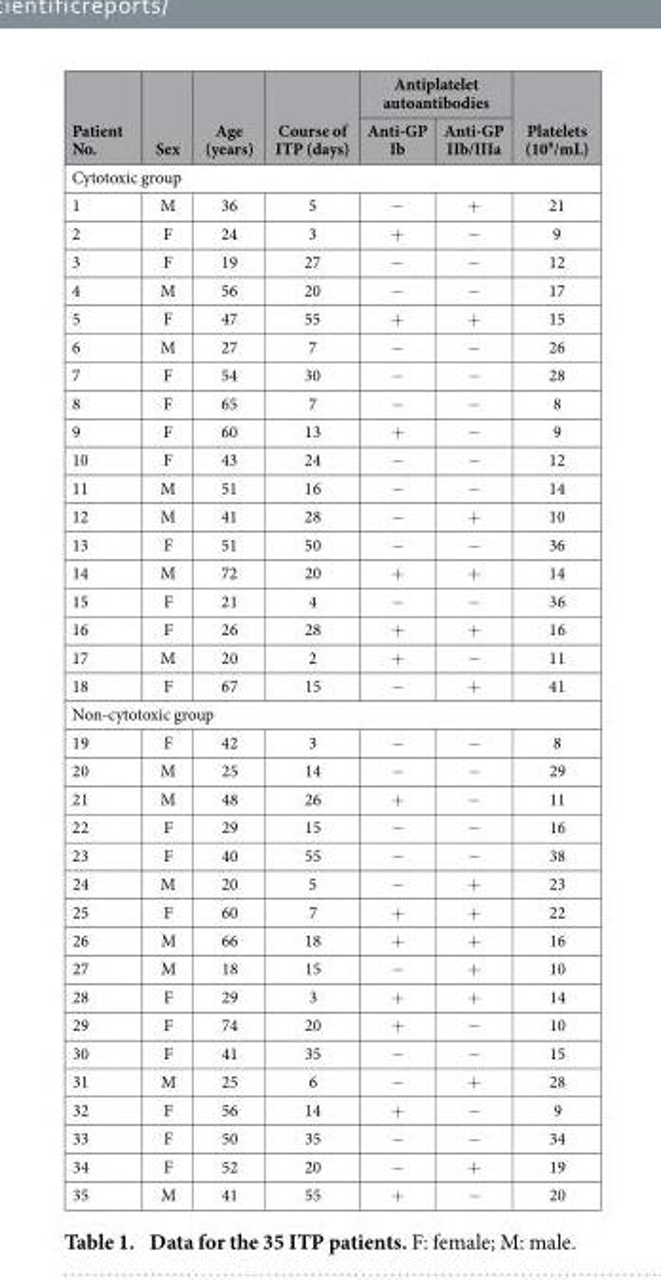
<table><thead><tr><td rowspan="2">Patient No.</td><td rowspan="2">Sex</td><td rowspan="2">Age (years)</td><td rowspan="2">Course of ITP (days)</td><td colspan="2">Antiplatelet autoantibodies</td><td rowspan="2">Platelets (10<sup>9</sup>/mL)</td></tr><tr><td>Anti-GP Ib</td><td>Anti-GP IIb/IIIa</td></tr></thead><tbody><tr><td colspan="7">Cytotoxic group</td></tr><tr><td>1</td><td>M</td><td>36</td><td>5</td><td>−</td><td>+</td><td>21</td></tr><tr><td>2</td><td>F</td><td>24</td><td>3</td><td>+</td><td>−</td><td>9</td></tr><tr><td>3</td><td>F</td><td>19</td><td>27</td><td>−</td><td>−</td><td>12</td></tr><tr><td>4</td><td>M</td><td>56</td><td>20</td><td>−</td><td>−</td><td>17</td></tr><tr><td>5</td><td>F</td><td>47</td><td>55</td><td>+</td><td>+</td><td>15</td></tr><tr><td>6</td><td>M</td><td>27</td><td>7</td><td>−</td><td>−</td><td>26</td></tr><tr><td>7</td><td>F</td><td>54</td><td>30</td><td>−</td><td>−</td><td>28</td></tr><tr><td>8</td><td>F</td><td>65</td><td>7</td><td>−</td><td>−</td><td>8</td></tr><tr><td>9</td><td>F</td><td>60</td><td>13</td><td>+</td><td>−</td><td>9</td></tr><tr><td>10</td><td>F</td><td>43</td><td>24</td><td>−</td><td>−</td><td>12</td></tr><tr><td>11</td><td>M</td><td>51</td><td>16</td><td>−</td><td>−</td><td>14</td></tr><tr><td>12</td><td>M</td><td>41</td><td>28</td><td>−</td><td>+</td><td>10</td></tr><tr><td>13</td><td>F</td><td>51</td><td>50</td><td>−</td><td>−</td><td>36</td></tr><tr><td>14</td><td>M</td><td>72</td><td>20</td><td>+</td><td>+</td><td>14</td></tr><tr><td>15</td><td>F</td><td>21</td><td>4</td><td>−</td><td>−</td><td>36</td></tr><tr><td>16</td><td>F</td><td>26</td><td>28</td><td>+</td><td>+</td><td>16</td></tr><tr><td>17</td><td>M</td><td>20</td><td>2</td><td>+</td><td>−</td><td>11</td></tr><tr><td>18</td><td>F</td><td>67</td><td>15</td><td>−</td><td>+</td><td>41</td></tr><tr><td colspan="7">Non-cytotoxic group</td></tr><tr><td>19</td><td>F</td><td>42</td><td>3</td><td>−</td><td>−</td><td>8</td></tr><tr><td>20</td><td>M</td><td>25</td><td>14</td><td>−</td><td>−</td><td>29</td></tr><tr><td>21</td><td>M</td><td>48</td><td>26</td><td>+</td><td>−</td><td>11</td></tr><tr><td>22</td><td>F</td><td>29</td><td>15</td><td>−</td><td>−</td><td>16</td></tr><tr><td>23</td><td>F</td><td>40</td><td>55</td><td>−</td><td>−</td><td>38</td></tr><tr><td>24</td><td>M</td><td>20</td><td>5</td><td>−</td><td>+</td><td>23</td></tr><tr><td>25</td><td>F</td><td>60</td><td>7</td><td>+</td><td>+</td><td>22</td></tr><tr><td>26</td><td>M</td><td>66</td><td>18</td><td>+</td><td>+</td><td>16</td></tr><tr><td>27</td><td>M</td><td>18</td><td>15</td><td>−</td><td>+</td><td>10</td></tr><tr><td>28</td><td>F</td><td>29</td><td>3</td><td>+</td><td>+</td><td>14</td></tr><tr><td>29</td><td>F</td><td>74</td><td>20</td><td>+</td><td>−</td><td>10</td></tr><tr><td>30</td><td>F</td><td>41</td><td>35</td><td>−</td><td>−</td><td>15</td></tr><tr><td>31</td><td>M</td><td>25</td><td>6</td><td>−</td><td>+</td><td>28</td></tr><tr><td>32</td><td>F</td><td>56</td><td>14</td><td>+</td><td>−</td><td>9</td></tr><tr><td>33</td><td>F</td><td>50</td><td>35</td><td>−</td><td>−</td><td>34</td></tr><tr><td>34</td><td>F</td><td>52</td><td>20</td><td>−</td><td>+</td><td>19</td></tr><tr><td>35</td><td>M</td><td>41</td><td>55</td><td>+</td><td>−</td><td>20</td></tr></tbody></table>